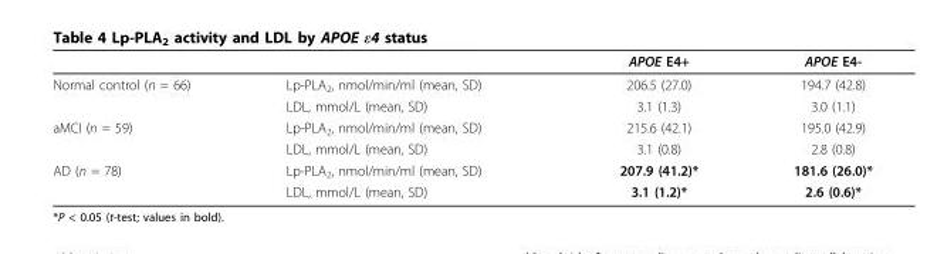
<table><thead><tr><td></td><td></td><td>APOE E4+</td><td>APOE E4-</td></tr></thead><tbody><tr><td rowspan="2">Normal control (n = 66)</td><td>Lp-PLA<sub>2</sub>, nmol/min/ml (mean, SD)</td><td>206.5 (27.0)</td><td>194.7 (42.8)</td></tr><tr><td>LDL, mmol/L (mean, SD)</td><td>3.1 (1.3)</td><td>3.0 (1.1)</td></tr><tr><td rowspan="2">aMCI (n = 59)</td><td>Lp-PLA<sub>2</sub>, nmol/min/ml (mean, SD)</td><td>215.6 (42.1)</td><td>195.0 (42.9)</td></tr><tr><td>LDL, mmol/L (mean, SD)</td><td>3.1 (0.8)</td><td>2.8 (0.8)</td></tr><tr><td rowspan="2">AD (n = 78)</td><td>Lp-PLA<sub>2</sub>, nmol/min/ml (mean, SD)</td><td>207.9 (41.2)*</td><td>181.6 (26.0)*</td></tr><tr><td>LDL, mmol/L (mean, SD)</td><td>3.1 (1.2)*</td><td>2.6 (0.6)*</td></tr></tbody></table>